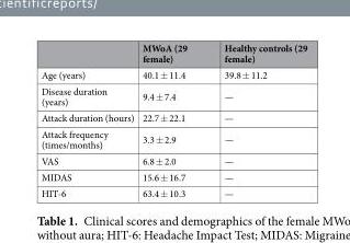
<table><thead><tr><td></td><td>MWoA (29 female)</td><td>Healthy controls (29 female)</td></tr></thead><tbody><tr><td>Age (years)</td><td>40.1 ± 11.4</td><td>39.8 ± 11.2</td></tr><tr><td>Disease duration (years)</td><td>9.4 ± 7.4</td><td>—</td></tr><tr><td>Attack duration (hours)</td><td>22.7 ± 22.1</td><td>—</td></tr><tr><td>Attack frequency (times/months)</td><td>3.3 ± 2.9</td><td>—</td></tr><tr><td>VAS</td><td>6.8 ± 2.0</td><td>—</td></tr><tr><td>MIDAS</td><td>15.6 ± 16.7</td><td>—</td></tr><tr><td>HIT-6</td><td>63.4 ± 10.3</td><td>—</td></tr></tbody></table>